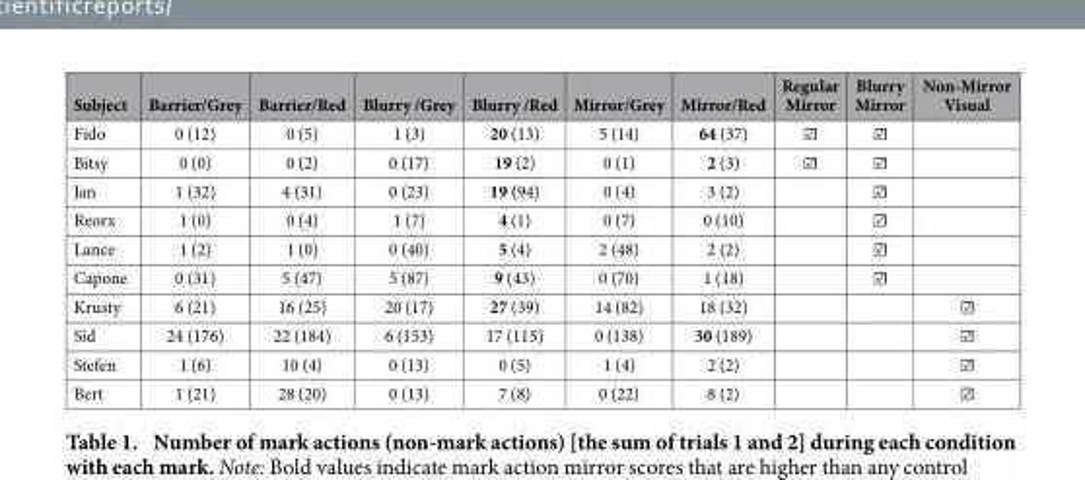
<table><thead><tr><td>Subject</td><td>Barrier/Grey</td><td>Barrier/Red</td><td>Blurry /Grey</td><td>Blurry /Red</td><td>Mirror/Grey</td><td>Mirror/Red</td><td>Regular Mirror</td><td>Blurry Mirror</td><td>Non-Mirror Visual</td></tr></thead><tbody><tr><td>Fido</td><td>0 (12)</td><td>0 (5)</td><td>1 (3)</td><td>20 (13)</td><td>5 (14)</td><td>64 (37)</td><td>☑</td><td>☑</td><td></td></tr><tr><td>Bitsy</td><td>0 (0)</td><td>0 (2)</td><td>0 (17)</td><td>19 (2)</td><td>0 (1)</td><td>2 (3)</td><td>☑</td><td>☑</td><td></td></tr><tr><td>Jan</td><td>1 (32)</td><td>4 (31)</td><td>0 (23)</td><td>19 (94)</td><td>0 (4)</td><td>3 (2)</td><td></td><td>☑</td><td></td></tr><tr><td>Reorx</td><td>1 (0)</td><td>0 (4)</td><td>1 (7)</td><td>4 (1)</td><td>0 (7)</td><td>0 (10)</td><td></td><td>☑</td><td></td></tr><tr><td>Lance</td><td>1 (2)</td><td>1 (0)</td><td>0 (40)</td><td>5 (4)</td><td>2 (48)</td><td>2 (2)</td><td></td><td>☑</td><td></td></tr><tr><td>Capone</td><td>0 (31)</td><td>5 (47)</td><td>5 (87)</td><td>9 (43)</td><td>0 (70)</td><td>1 (18)</td><td></td><td>☑</td><td></td></tr><tr><td>Krusty</td><td>6 (21)</td><td>16 (25)</td><td>20 (17)</td><td>27 (39)</td><td>14 (82)</td><td>18 (32)</td><td></td><td></td><td>☑</td></tr><tr><td>Sid</td><td>24 (176)</td><td>22 (184)</td><td>6 (153)</td><td>17 (115)</td><td>0 (138)</td><td>30 (189)</td><td></td><td></td><td>☑</td></tr><tr><td>Stefen</td><td>1 (6)</td><td>10 (4)</td><td>0 (13)</td><td>0 (5)</td><td>1 (4)</td><td>2 (2)</td><td></td><td></td><td>☑</td></tr><tr><td>Bert</td><td>1 (21)</td><td>28 (20)</td><td>0 (13)</td><td>7 (8)</td><td>0 (22)</td><td>8 (2)</td><td></td><td></td><td>☑</td></tr></tbody></table>